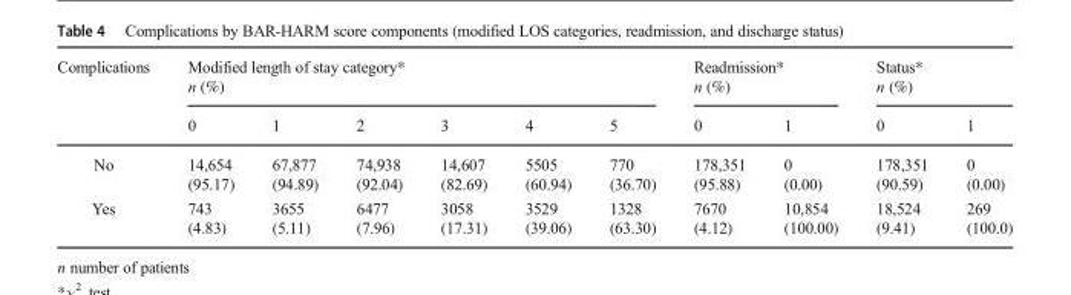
<table><thead><tr><td rowspan="2">Complications</td><td colspan="6">Modified length of stay category* n (%)</td><td colspan="2">Readmission* n (%)</td><td colspan="2">Status* n (%)</td></tr><tr><td>0</td><td>1</td><td>2</td><td>3</td><td>4</td><td>5</td><td>0</td><td>1</td><td>0</td><td>1</td></tr></thead><tbody><tr><td>No</td><td>14,654 (95.17)</td><td>67,877 (94.89)</td><td>74,938 (92.04)</td><td>14,607 (82.69)</td><td>5505 (60.94)</td><td>770 (36.70)</td><td>178,351 (95.88)</td><td>0 (0.00)</td><td>178,351 (90.59)</td><td>0 (0.00)</td></tr><tr><td>Yes</td><td>743 (4.83)</td><td>3655 (5.11)</td><td>6477 (7.96)</td><td>3058 (17.31)</td><td>3529 (39.06)</td><td>1328 (63.30)</td><td>7670 (4.12)</td><td>10,854 (100.00)</td><td>18,524 (9.41)</td><td>269 (100.0)</td></tr></tbody></table>